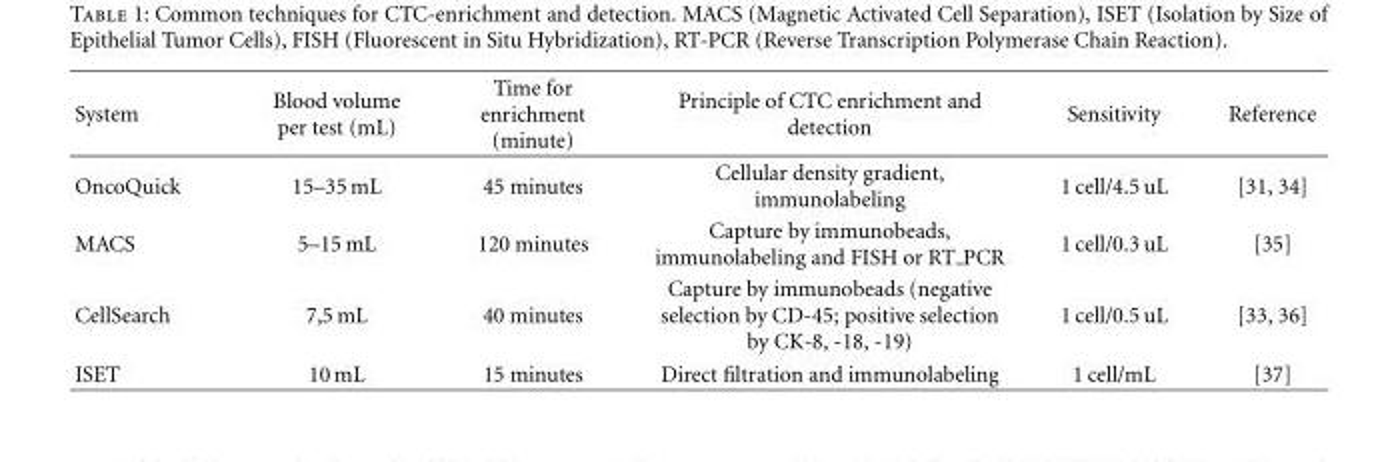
<table><thead><tr><td>System</td><td>Blood volume per test (mL)</td><td>Time for enrichment (minute)</td><td>Principle of CTC enrichment and detection</td><td>Sensitivity</td><td>Reference</td></tr></thead><tbody><tr><td>OncoQuick</td><td>15–35 mL</td><td>45 minutes</td><td>Cellular density gradient, immunolabeling</td><td>1 cell/4.5 uL</td><td>[31, 34]</td></tr><tr><td>MACS</td><td>5–15 mL</td><td>120 minutes</td><td>Capture by immunobeads, immunolabeling and FISH or RT PCR</td><td>1 cell/0.3 uL</td><td>[35]</td></tr><tr><td>CellSearch</td><td>7,5 mL</td><td>40 minutes</td><td>Capture by immunobeads (negative selection by CD-45; positive selection by CK-8, -18, -19)</td><td>1 cell/0.5 uL</td><td>[33, 36]</td></tr><tr><td>ISET</td><td>10 mL</td><td>15 minutes</td><td>Direct filtration and immunolabeling</td><td>1 cell/mL</td><td>[37]</td></tr></tbody></table>